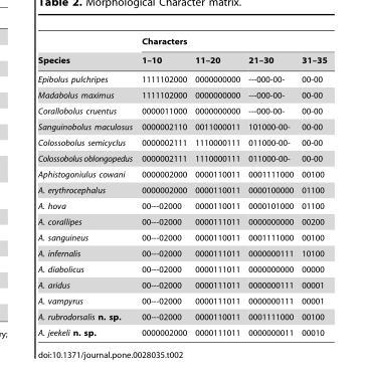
<table><thead><tr><td rowspan="2">Species</td><td colspan="4">Characters</td></tr><tr><td>1–10</td><td>11–20</td><td>21–30</td><td>31–35</td></tr></thead><tbody><tr><td>Epibolus pulchripes</td><td>1111102000</td><td>0000000000</td><td>---000-00-</td><td>00-00</td></tr><tr><td>Madabolus maximus</td><td>1111102000</td><td>0000000000</td><td>---000-00-</td><td>00-00</td></tr><tr><td>Corallobolus cruentus</td><td>0000011000</td><td>0000000000</td><td>---000-00-</td><td>00-00</td></tr><tr><td>Sanguinobolus maculosus</td><td>0000002110</td><td>0011000011</td><td>101000-00-</td><td>00-00</td></tr><tr><td>Colossobolus semicyclus</td><td>0000002111</td><td>1110000111</td><td>011000-00-</td><td>00-00</td></tr><tr><td>Colossobolus oblongopedus</td><td>0000002111</td><td>1110000111</td><td>011000-00-</td><td>00-00</td></tr><tr><td>Aphistogoniulus cowani</td><td>0000002000</td><td>0000110011</td><td>0001111000</td><td>00100</td></tr><tr><td>A. erythrocephalus</td><td>0000002000</td><td>0000110011</td><td>0000100000</td><td>01100</td></tr><tr><td>A. hova</td><td>00---02000</td><td>0000110011</td><td>0000101000</td><td>01100</td></tr><tr><td>A. corallipes</td><td>00---02000</td><td>0000111011</td><td>0000000000</td><td>00200</td></tr><tr><td>A. sanguineus</td><td>00---02000</td><td>0000110011</td><td>0001111000</td><td>00100</td></tr><tr><td>A. infernalis</td><td>00---02000</td><td>0000111011</td><td>0000000111</td><td>10100</td></tr><tr><td>A. diabolicus</td><td>00---02000</td><td>0000111011</td><td>0000000000</td><td>00000</td></tr><tr><td>A. aridus</td><td>00---02000</td><td>0000111011</td><td>0000000111</td><td>00001</td></tr><tr><td>A. vampyrus</td><td>00---02000</td><td>0000111011</td><td>0000000111</td><td>00001</td></tr><tr><td>A. rubrodorsalis n. sp.</td><td>00---02000</td><td>0000110011</td><td>0001111000</td><td>00100</td></tr><tr><td>A. jeekeli n. sp.</td><td>0000002000</td><td>0000111011</td><td>0000000011</td><td>00010</td></tr></tbody></table>